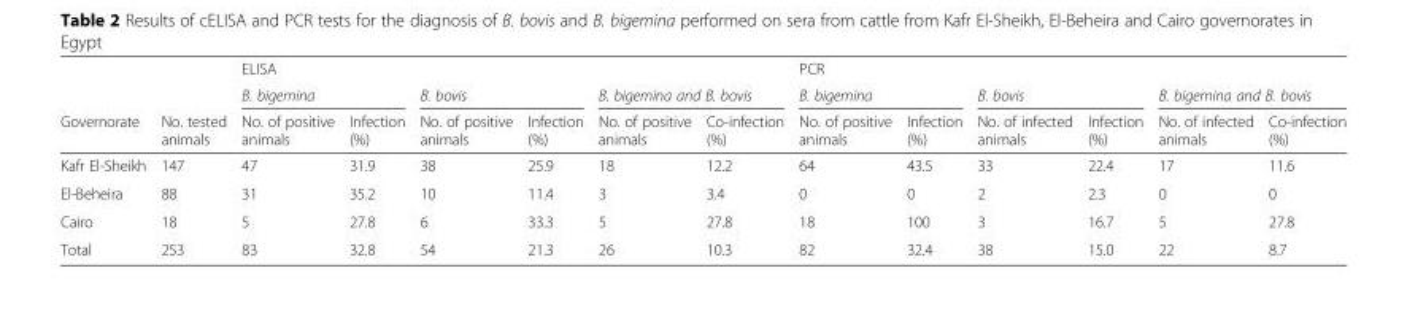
<table><thead><tr><td rowspan="3">Governorate</td><td rowspan="3">No. tested animals</td><td colspan="6">ELISA</td><td colspan="6">PCR</td></tr><tr><td colspan="2">B. bigemina</td><td colspan="2">B. bovis</td><td colspan="2">B. bigemina and B. bovis</td><td colspan="2">B. bigemina</td><td colspan="2">B. bovis</td><td colspan="2">B. bigemina and B. bovis</td></tr><tr><td>No. of positive animals</td><td>Infection (%)</td><td>No. of positive animals</td><td>Infection (%)</td><td>No. of positive animals</td><td>Co-infection (%)</td><td>No. of positive animals</td><td>Infection (%)</td><td>No. of infected animals</td><td>Infection (%)</td><td>No. of infected animals</td><td>Co-infection (%)</td></tr></thead><tbody><tr><td>Kafr El-Sheikh</td><td>147</td><td>47</td><td>31.9</td><td>38</td><td>25.9</td><td>18</td><td>12.2</td><td>64</td><td>43.5</td><td>33</td><td>22.4</td><td>17</td><td>11.6</td></tr><tr><td>El-Beheira</td><td>88</td><td>31</td><td>35.2</td><td>10</td><td>11.4</td><td>3</td><td>3.4</td><td>0</td><td>0</td><td>2</td><td>2.3</td><td>0</td><td>0</td></tr><tr><td>Cairo</td><td>18</td><td>5</td><td>27.8</td><td>6</td><td>33.3</td><td>5</td><td>27.8</td><td>18</td><td>100</td><td>3</td><td>16.7</td><td>5</td><td>27.8</td></tr><tr><td>Total</td><td>253</td><td>83</td><td>32.8</td><td>54</td><td>21.3</td><td>26</td><td>10.3</td><td>82</td><td>32.4</td><td>38</td><td>15.0</td><td>22</td><td>8.7</td></tr></tbody></table>